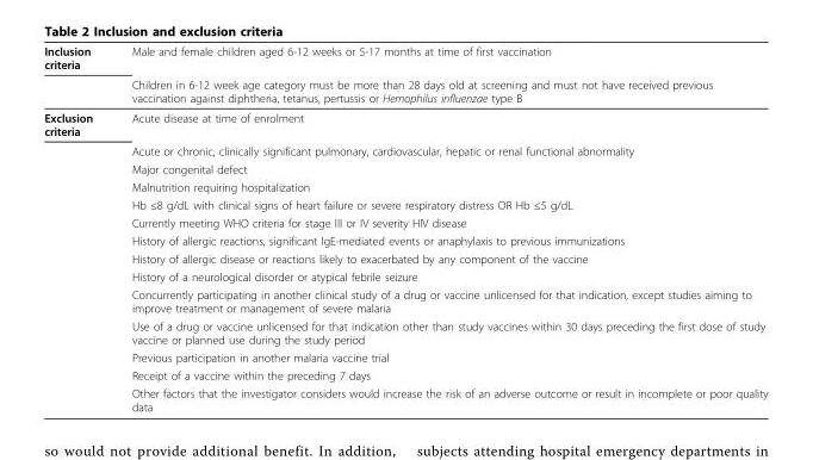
<table><thead><tr><td rowspan="2">Inclusion criteria</td><td rowspan="2">Male and female children aged 6-12 weeks or 5-17 months at time of first vaccination Children in 6-12 week age category must be more than 28 days old at screening and must not have received previous vaccination against diphtheria, tetanus, pertussis or Hemophilus influenzae type B</td></tr><tr></tr></thead><tbody><tr><td rowspan="14">Exclusion criteria</td><td>Acute disease at time of enrolment</td></tr><tr><td>Acute or chronic, clinically significant pulmonary, cardiovascular, hepatic or renal functional abnormality</td></tr><tr><td>Major congenital defect</td></tr><tr><td>Malnutrition requiring hospitalization</td></tr><tr><td>Hb ≤8 g/dL with clinical signs of heart failure or severe respiratory distress OR Hb ≤5 g/dL</td></tr><tr><td>Currently meeting WHO criteria for stage III or IV severity HIV disease</td></tr><tr><td>History of allergic reactions, significant IgE-mediated events or anaphylaxis to previous immunizations</td></tr><tr><td>History of allergic disease or reactions likely to exacerbated by any component of the vaccine</td></tr><tr><td>History of a neurological disorder or atypical febrile seizure</td></tr><tr><td>Concurrently participating in another clinical study of a drug or vaccine unlicensed for that indication, except studies aiming to improve treatment or management of severe malaria</td></tr><tr><td>Use of a drug or vaccine unlicensed for that indication other than study vaccines within 30 days preceding the first dose of study vaccine or planned use during the study period</td></tr><tr><td>Previous participation in another malaria vaccine trial</td></tr><tr><td>Receipt of a vaccine within the preceding 7 days</td></tr><tr><td>Other factors that the investigator considers would increase the risk of an adverse outcome or result in incomplete or poor quality data</td></tr></tbody></table>